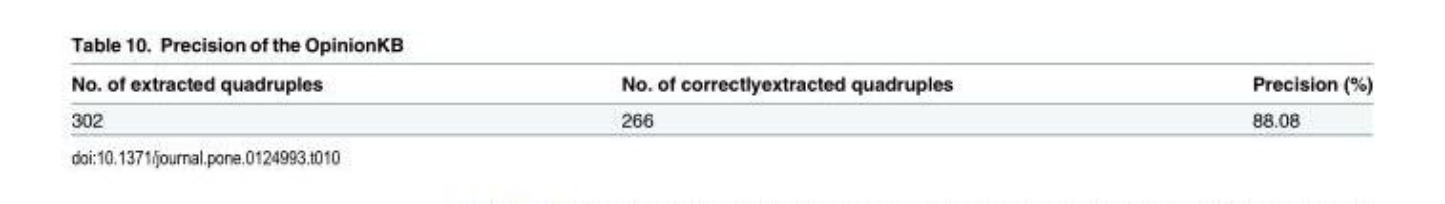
<table><thead><tr><td>No. of extracted quadruples</td><td>No. of correctlyextracted quadruples</td><td>Precision (%)</td></tr></thead><tbody><tr><td>302</td><td>266</td><td>88.08</td></tr></tbody></table>